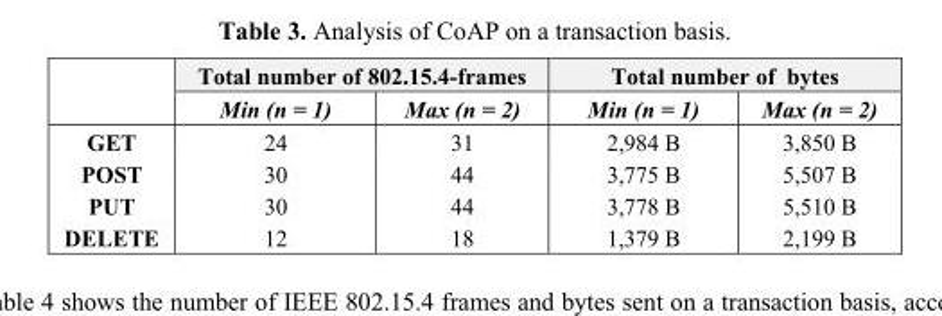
<table><thead><tr><td rowspan="2"></td><td colspan="2">Total number of 802.15.4-frames</td><td colspan="2">Total number of bytes</td></tr><tr><td>Min (n = 1)</td><td>Max (n = 2)</td><td>Min (n = 1)</td><td>Max (n = 2)</td></tr></thead><tbody><tr><td>GET</td><td>24</td><td>31</td><td>2,984 B</td><td>3,850 B</td></tr><tr><td>POST</td><td>30</td><td>44</td><td>3,775 B</td><td>5,507 B</td></tr><tr><td>PUT</td><td>30</td><td>44</td><td>3,778 B</td><td>5,510 B</td></tr><tr><td>DELETE</td><td>12</td><td>18</td><td>1,379 B</td><td>2,199 B</td></tr></tbody></table>